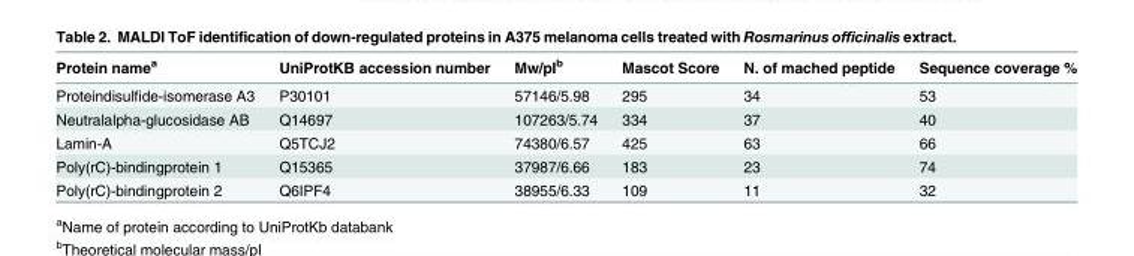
<table><thead><tr><td>Protein name<sup>a</sup></td><td>UniProtKB accession number</td><td>Mw/pI<sup>b</sup></td><td>Mascot Score</td><td>N. of mached peptide</td><td>Sequence coverage %</td></tr></thead><tbody><tr><td>Proteindisulfide-isomerase A3</td><td>P30101</td><td>57146/5.98</td><td>295</td><td>34</td><td>53</td></tr><tr><td>Neutralalpha-glucosidase AB</td><td>Q14697</td><td>107263/5.74</td><td>334</td><td>37</td><td>40</td></tr><tr><td>Lamin-A</td><td>Q5TCJ2</td><td>74380/6.57</td><td>425</td><td>63</td><td>66</td></tr><tr><td>Poly(rC)-bindingprotein 1</td><td>Q15365</td><td>37987/6.66</td><td>183</td><td>23</td><td>74</td></tr><tr><td>Poly(rC)-bindingprotein 2</td><td>Q6IPF4</td><td>38955/6.33</td><td>109</td><td>11</td><td>32</td></tr></tbody></table>